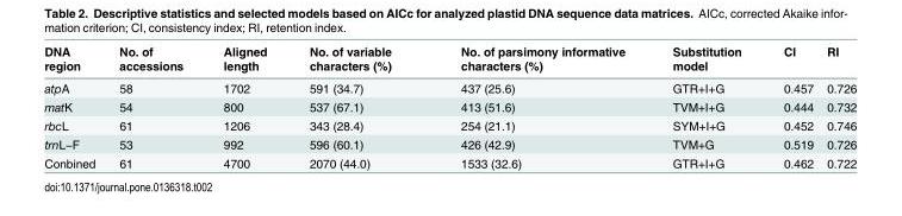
<table><thead><tr><td>DNA region</td><td>No. of accessions</td><td>Aligned length</td><td>No. of variable characters (%)</td><td>No. of parsimony informative characters (%)</td><td>Substitution model</td><td>CI</td><td>RI</td></tr></thead><tbody><tr><td>atpA</td><td>58</td><td>1702</td><td>591 (34.7)</td><td>437 (25.6)</td><td>GTR+I+G</td><td>0.457</td><td>0.726</td></tr><tr><td>matK</td><td>54</td><td>800</td><td>537 (67.1)</td><td>413 (51.6)</td><td>TVM+I+G</td><td>0.444</td><td>0.732</td></tr><tr><td>rbcL</td><td>61</td><td>1206</td><td>343 (28.4)</td><td>254 (21.1)</td><td>SYM+I+G</td><td>0.452</td><td>0.746</td></tr><tr><td>trnL−F</td><td>53</td><td>992</td><td>596 (60.1)</td><td>426 (42.9)</td><td>TVM+G</td><td>0.519</td><td>0.726</td></tr><tr><td>Conbined</td><td>61</td><td>4700</td><td>2070 (44.0)</td><td>1533 (32.6)</td><td>GTR+I+G</td><td>0.462</td><td>0.722</td></tr></tbody></table>